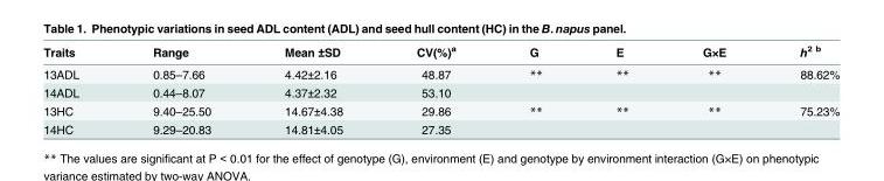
<table><thead><tr><td>Traits</td><td>Range</td><td>Mean ±SD</td><td>CV(%)<sup>a</sup></td><td>G</td><td>E</td><td>G×E</td><td>h<sup>2 b</sup></td></tr></thead><tbody><tr><td>13ADL</td><td>0.85–7.66</td><td>4.42±2.16</td><td>48.87</td><td>**</td><td>**</td><td>**</td><td>88.62%</td></tr><tr><td>14ADL</td><td>0.44–8.07</td><td>4.37±2.32</td><td>53.10</td><td></td><td></td><td></td><td></td></tr><tr><td>13HC</td><td>9.40–25.50</td><td>14.67±4.38</td><td>29.86</td><td>**</td><td>**</td><td>**</td><td>75.23%</td></tr><tr><td>14HC</td><td>9.29–20.83</td><td>14.81±4.05</td><td>27.35</td><td></td><td></td><td></td><td></td></tr></tbody></table>